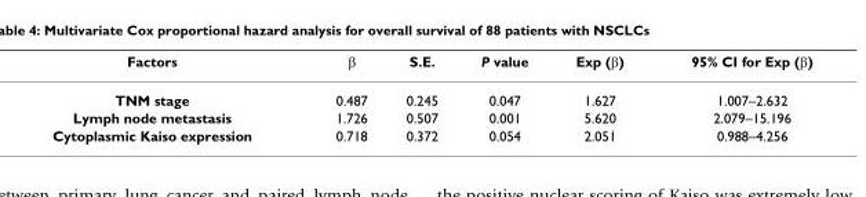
<table><thead><tr><td>Factors</td><td>β</td><td>S.E.</td><td>P value</td><td>Exp (β)</td><td>95% CI for Exp (β)</td></tr></thead><tbody><tr><td>TNM stage</td><td>0.487</td><td>0.245</td><td>0.047</td><td>1.627</td><td>1.007–2.632</td></tr><tr><td>Lymph node metastasis</td><td>1.726</td><td>0.507</td><td>0.001</td><td>5.620</td><td>2.079–15.196</td></tr><tr><td>Cytoplasmic Kaiso expression</td><td>0.718</td><td>0.372</td><td>0.054</td><td>2.051</td><td>0.988–4.256</td></tr></tbody></table>